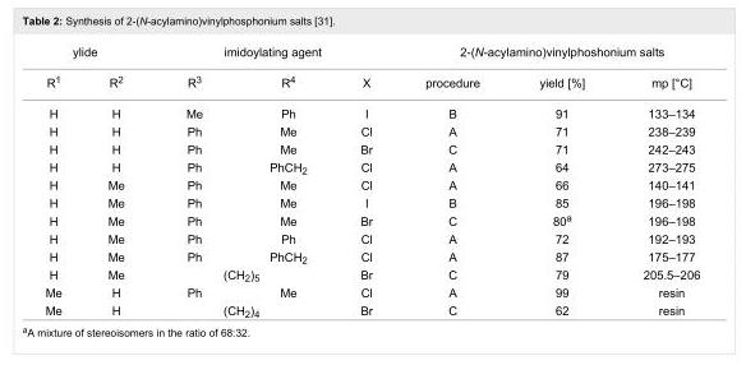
<table><tbody><tr><td colspan="2">ylide</td><td colspan="3">imidoylating agent</td><td colspan="3">2-(N-acylamino)vinylphoshonium salts</td></tr><tr><td>R<sup>1</sup></td><td>R<sup>2</sup></td><td>R<sup>3</sup></td><td>R<sup>4</sup></td><td>X</td><td>procedure</td><td>yield [%]</td><td>mp [°C]</td></tr><tr><td>H</td><td>H</td><td>Me</td><td>Ph</td><td>I</td><td>B</td><td>91</td><td>133–134</td></tr><tr><td>H</td><td>H</td><td>Ph</td><td>Me</td><td>Cl</td><td>A</td><td>71</td><td>238–239</td></tr><tr><td>H</td><td>H</td><td>Ph</td><td>Me</td><td>Br</td><td>C</td><td>71</td><td>242–243</td></tr><tr><td>H</td><td>H</td><td>Ph</td><td>PhCH<sub>2</sub></td><td>Cl</td><td>A</td><td>64</td><td>273–275</td></tr><tr><td>H</td><td>Me</td><td>Ph</td><td>Me</td><td>Cl</td><td>A</td><td>66</td><td>140–141</td></tr><tr><td>H</td><td>Me</td><td>Ph</td><td>Me</td><td>I</td><td>B</td><td>85</td><td>196–198</td></tr><tr><td>H</td><td>Me</td><td>Ph</td><td>Me</td><td>Br</td><td>C</td><td>80<sup>a</sup></td><td>196–198</td></tr><tr><td>H</td><td>Me</td><td>Ph</td><td>Ph</td><td>Cl</td><td>A</td><td>72</td><td>192–193</td></tr><tr><td>H</td><td>Me</td><td>Ph</td><td>PhCH<sub>2</sub></td><td>Cl</td><td>A</td><td>87</td><td>175–177</td></tr><tr><td>H</td><td>Me</td><td colspan="2">(CH<sub>2</sub>)<sub>5</sub></td><td>Br</td><td>C</td><td>79</td><td>205.5–206</td></tr><tr><td>Me</td><td>H</td><td>Ph</td><td>Me</td><td>Cl</td><td>A</td><td>99</td><td>resin</td></tr><tr><td>Me</td><td>H</td><td colspan="2">(CH<sub>2</sub>)<sub>4</sub></td><td>Br</td><td>C</td><td>62</td><td>resin</td></tr></tbody></table>